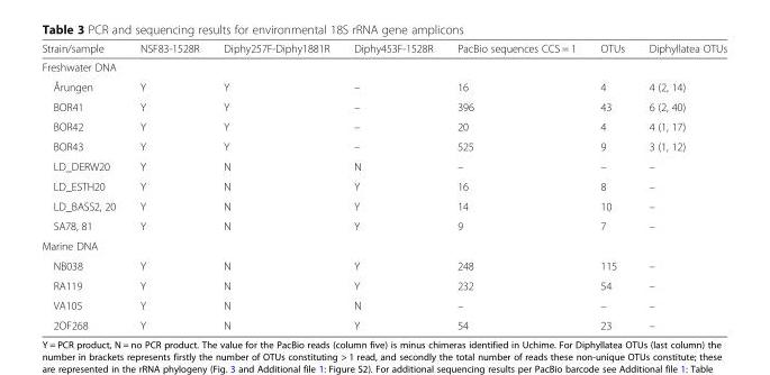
<table><thead><tr><td>Strain/sample</td><td>NSF83-1528R</td><td>Diphy257F-Diphy1881R</td><td>Diphy453F-1528R</td><td>PacBio sequences CCS = 1</td><td>OTUs</td><td>Diphyllatea OTUs</td></tr></thead><tbody><tr><td colspan="7">Freshwater DNA</td></tr><tr><td>Årungen</td><td>Y</td><td>Y</td><td>–</td><td>16</td><td>4</td><td>4 (2, 14)</td></tr><tr><td>BOR41</td><td>Y</td><td>Y</td><td>–</td><td>396</td><td>43</td><td>6 (2, 40)</td></tr><tr><td>BOR42</td><td>Y</td><td>Y</td><td>–</td><td>20</td><td>4</td><td>4 (1, 17)</td></tr><tr><td>BOR43</td><td>Y</td><td>Y</td><td>–</td><td>525</td><td>9</td><td>3 (1, 12)</td></tr><tr><td>LD_DERW20</td><td>Y</td><td>N</td><td>N</td><td>–</td><td>–</td><td>–</td></tr><tr><td>LD_ESTH20</td><td>Y</td><td>N</td><td>Y</td><td>16</td><td>8</td><td>–</td></tr><tr><td>LD_BASS2, 20</td><td>Y</td><td>N</td><td>Y</td><td>14</td><td>10</td><td>–</td></tr><tr><td>SA78, 81</td><td>Y</td><td>N</td><td>Y</td><td>9</td><td>7</td><td>–</td></tr><tr><td colspan="7">Marine DNA</td></tr><tr><td>NB038</td><td>Y</td><td>N</td><td>Y</td><td>248</td><td>115</td><td>–</td></tr><tr><td>RA119</td><td>Y</td><td>N</td><td>Y</td><td>232</td><td>54</td><td>–</td></tr><tr><td>VA105</td><td>Y</td><td>N</td><td>N</td><td>–</td><td>–</td><td>–</td></tr><tr><td>2OF268</td><td>Y</td><td>N</td><td>Y</td><td>54</td><td>23</td><td>–</td></tr></tbody></table>